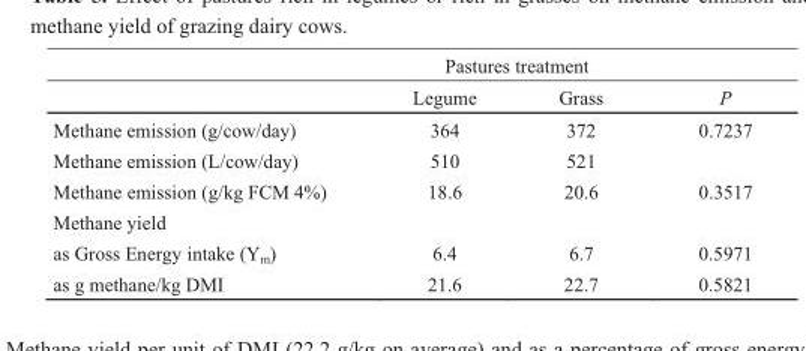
<table><thead><tr><td rowspan="2"></td><td colspan="2">Pastures treatment</td><td rowspan="2">P</td></tr><tr><td>Legume</td><td>Grass</td></tr></thead><tbody><tr><td>Methane emission (g/cow/day)</td><td>364</td><td>372</td><td>0.7237</td></tr><tr><td>Methane emission (L/cow/day)</td><td>510</td><td>521</td><td></td></tr><tr><td>Methane emission (g/kg FCM 4%)</td><td>18.6</td><td>20.6</td><td>0.3517</td></tr><tr><td colspan="4">Methane yield</td></tr><tr><td>as Gross Energy intake (Y<sub>m</sub>)</td><td>6.4</td><td>6.7</td><td>0.5971</td></tr><tr><td>as g methane/kg DMI</td><td>21.6</td><td>22.7</td><td>0.5821</td></tr></tbody></table>